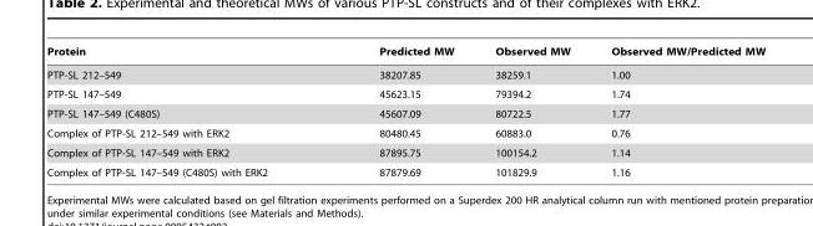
<table><thead><tr><td>Protein</td><td>Predicted MW</td><td>Observed MW</td><td>Observed MW/Predicted MW</td></tr></thead><tbody><tr><td>PTP-SL 212–549</td><td>38207.85</td><td>38259.1</td><td>1.00</td></tr><tr><td>PTP-SL 147–549</td><td>45623.15</td><td>79394.2</td><td>1.74</td></tr><tr><td>PTP-SL 147–549 (C480S)</td><td>45607.09</td><td>80722.5</td><td>1.77</td></tr><tr><td>Complex of PTP-SL 212–549 with ERK2</td><td>80480.45</td><td>60883.0</td><td>0.76</td></tr><tr><td>Complex of PTP-SL 147–549 with ERK2</td><td>87895.75</td><td>100154.2</td><td>1.14</td></tr><tr><td>Complex of PTP-SL 147–549 (C480S) with ERK2</td><td>87879.69</td><td>101829.9</td><td>1.16</td></tr></tbody></table>